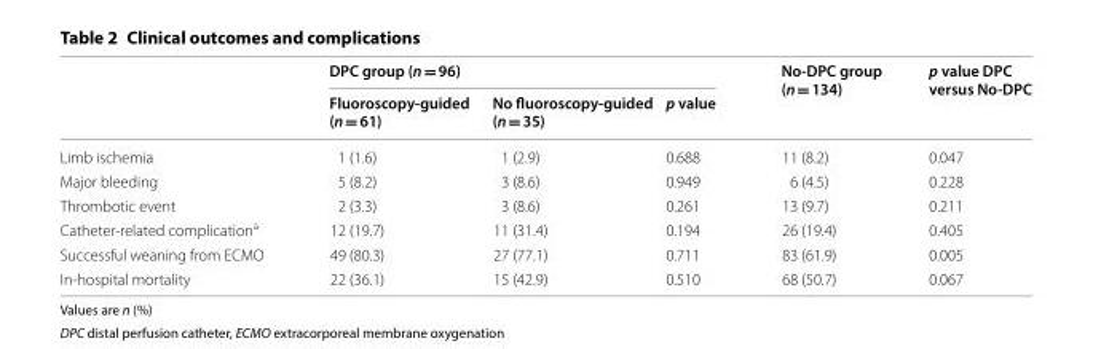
<table><thead><tr><td rowspan="2"></td><td colspan="3">DPC group (n = 96)</td><td rowspan="2">No‑DPC group (n = 134)</td><td rowspan="2">p value DPC versus No‑DPC</td></tr><tr><td>Fluoroscopy‑guided (n = 61)</td><td>No fluoroscopy‑guided (n = 35)</td><td>p value</td></tr></thead><tbody><tr><td>Limb ischemia</td><td>1 (1.6)</td><td>1 (2.9)</td><td>0.688</td><td>11 (8.2)</td><td>0.047</td></tr><tr><td>Major bleeding</td><td>5 (8.2)</td><td>3 (8.6)</td><td>0.949</td><td>6 (4.5)</td><td>0.228</td></tr><tr><td>Thrombotic event</td><td>2 (3.3)</td><td>3 (8.6)</td><td>0.261</td><td>13 (9.7)</td><td>0.211</td></tr><tr><td>Catheter‑related complication<sup>a</sup></td><td>12 (19.7)</td><td>11 (31.4)</td><td>0.194</td><td>26 (19.4)</td><td>0.405</td></tr><tr><td>Successful weaning from ECMO</td><td>49 (80.3)</td><td>27 (77.1)</td><td>0.711</td><td>83 (61.9)</td><td>0.005</td></tr><tr><td>In‑hospital mortality</td><td>22 (36.1)</td><td>15 (42.9)</td><td>0.510</td><td>68 (50.7)</td><td>0.067</td></tr></tbody></table>